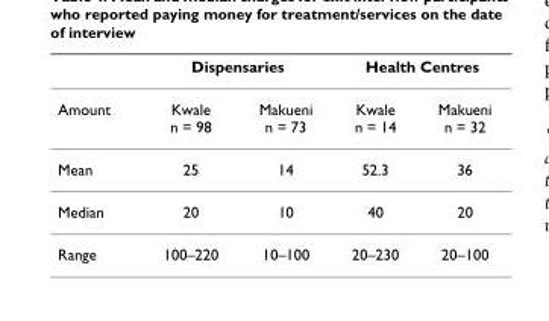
<table><thead><tr><td rowspan="2">Amount</td><td colspan="2">Dispensaries</td><td colspan="2">Health Centres</td></tr><tr><td>Kwale n = 98</td><td>Makueni n = 73</td><td>Kwale n = 14</td><td>Makueni n = 32</td></tr></thead><tbody><tr><td>Mean</td><td>25</td><td>14</td><td>52.3</td><td>36</td></tr><tr><td>Median</td><td>20</td><td>10</td><td>40</td><td>20</td></tr><tr><td>Range</td><td>100–220</td><td>10–100</td><td>20–230</td><td>20–100</td></tr></tbody></table>